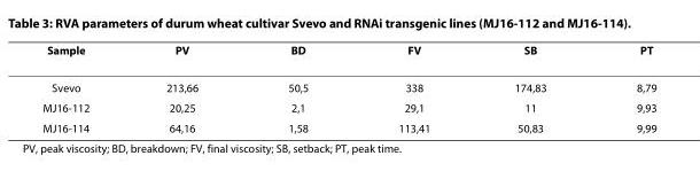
<table><thead><tr><td>Sample</td><td>PV</td><td>BD</td><td>FV</td><td>SB</td><td>PT</td></tr></thead><tbody><tr><td>Svevo</td><td>213,66</td><td>50,5</td><td>338</td><td>174,83</td><td>8,79</td></tr><tr><td>MJ16-112</td><td>20,25</td><td>2,1</td><td>29,1</td><td>11</td><td>9,93</td></tr><tr><td>MJ16-114</td><td>64,16</td><td>1,58</td><td>113,41</td><td>50,83</td><td>9,99</td></tr></tbody></table>